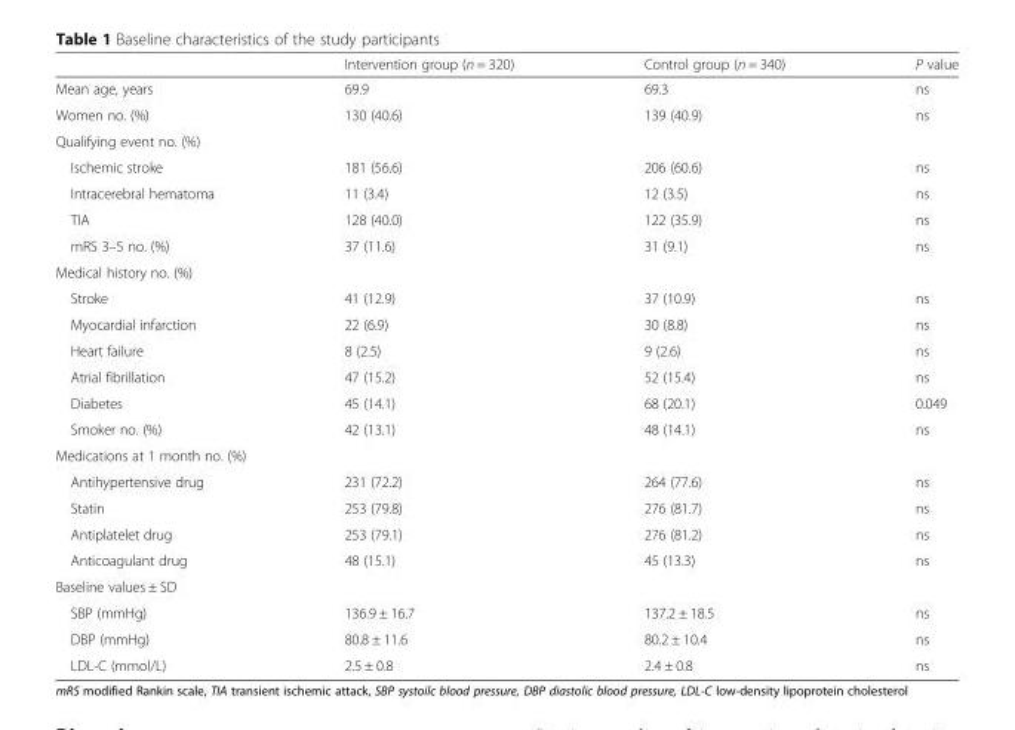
<table><thead><tr><td></td><td>Intervention group (n = 320)</td><td>Control group (n = 340)</td><td>P value</td></tr></thead><tbody><tr><td>Mean age, years</td><td>69.9</td><td>69.3</td><td>ns</td></tr><tr><td>Women no. (%)</td><td>130 (40.6)</td><td>139 (40.9)</td><td>ns</td></tr><tr><td colspan="4">Qualifying event no. (%)</td></tr><tr><td>Ischemic stroke</td><td>181 (56.6)</td><td>206 (60.6)</td><td>ns</td></tr><tr><td>Intracerebral hematoma</td><td>11 (3.4)</td><td>12 (3.5)</td><td>ns</td></tr><tr><td>TIA</td><td>128 (40.0)</td><td>122 (35.9)</td><td>ns</td></tr><tr><td>mRS 3–5 no. (%)</td><td>37 (11.6)</td><td>31 (9.1)</td><td>ns</td></tr><tr><td colspan="4">Medical history no. (%)</td></tr><tr><td>Stroke</td><td>41 (12.9)</td><td>37 (10.9)</td><td>ns</td></tr><tr><td>Myocardial infarction</td><td>22 (6.9)</td><td>30 (8.8)</td><td>ns</td></tr><tr><td>Heart failure</td><td>8 (2.5)</td><td>9 (2.6)</td><td>ns</td></tr><tr><td>Atrial fibrillation</td><td>47 (15.2)</td><td>52 (15.4)</td><td>ns</td></tr><tr><td>Diabetes</td><td>45 (14.1)</td><td>68 (20.1)</td><td>0.049</td></tr><tr><td>Smoker no. (%)</td><td>42 (13.1)</td><td>48 (14.1)</td><td>ns</td></tr><tr><td colspan="4">Medications at 1 month no. (%)</td></tr><tr><td>Antihypertensive drug</td><td>231 (72.2)</td><td>264 (77.6)</td><td>ns</td></tr><tr><td>Statin</td><td>253 (79.8)</td><td>276 (81.7)</td><td>ns</td></tr><tr><td>Antiplatelet drug</td><td>253 (79.1)</td><td>276 (81.2)</td><td>ns</td></tr><tr><td>Anticoagulant drug</td><td>48 (15.1)</td><td>45 (13.3)</td><td>ns</td></tr><tr><td colspan="4">Baseline values ± SD</td></tr><tr><td>SBP (mmHg)</td><td>136.9 ± 16.7</td><td>137.2 ± 18.5</td><td>ns</td></tr><tr><td>DBP (mmHg)</td><td>80.8 ± 11.6</td><td>80.2 ± 10.4</td><td>ns</td></tr><tr><td>LDL-C (mmol/L)</td><td>2.5 ± 0.8</td><td>2.4 ± 0.8</td><td>ns</td></tr></tbody></table>